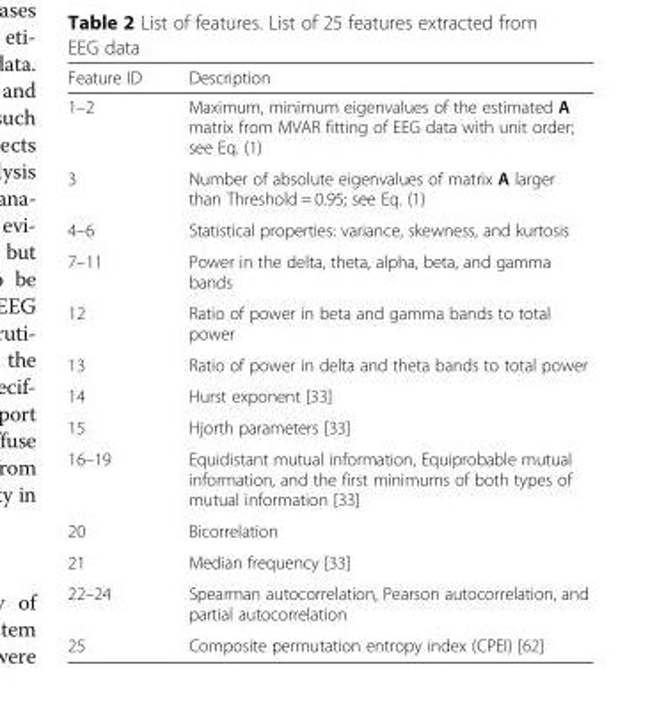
<table><thead><tr><td>Feature ID</td><td>Description</td></tr></thead><tbody><tr><td>1–2</td><td>Maximum, minimum eigenvalues of the estimated A matrix from MVAR fitting of EEG data with unit order; see Eq. (1)</td></tr><tr><td>3</td><td>Number of absolute eigenvalues of matrix A larger than Threshold = 0.95; see Eq. (1)</td></tr><tr><td>4–6</td><td>Statistical properties: variance, skewness, and kurtosis</td></tr><tr><td>7–11</td><td>Power in the delta, theta, alpha, beta, and gamma bands</td></tr><tr><td>12</td><td>Ratio of power in beta and gamma bands to total power</td></tr><tr><td>13</td><td>Ratio of power in delta and theta bands to total power</td></tr><tr><td>14</td><td>Hurst exponent [33]</td></tr><tr><td>15</td><td>Hjorth parameters [33]</td></tr><tr><td>16–19</td><td>Equidistant mutual information, Equiprobable mutual information, and the first minimums of both types of mutual information [33]</td></tr><tr><td>20</td><td>Bicorrelation</td></tr><tr><td>21</td><td>Median frequency [33]</td></tr><tr><td>22–24</td><td>Spearman autocorrelation, Pearson autocorrelation, and partial autocorrelation</td></tr><tr><td>25</td><td>Composite permutation entropy index (CPEI) [62]</td></tr></tbody></table>